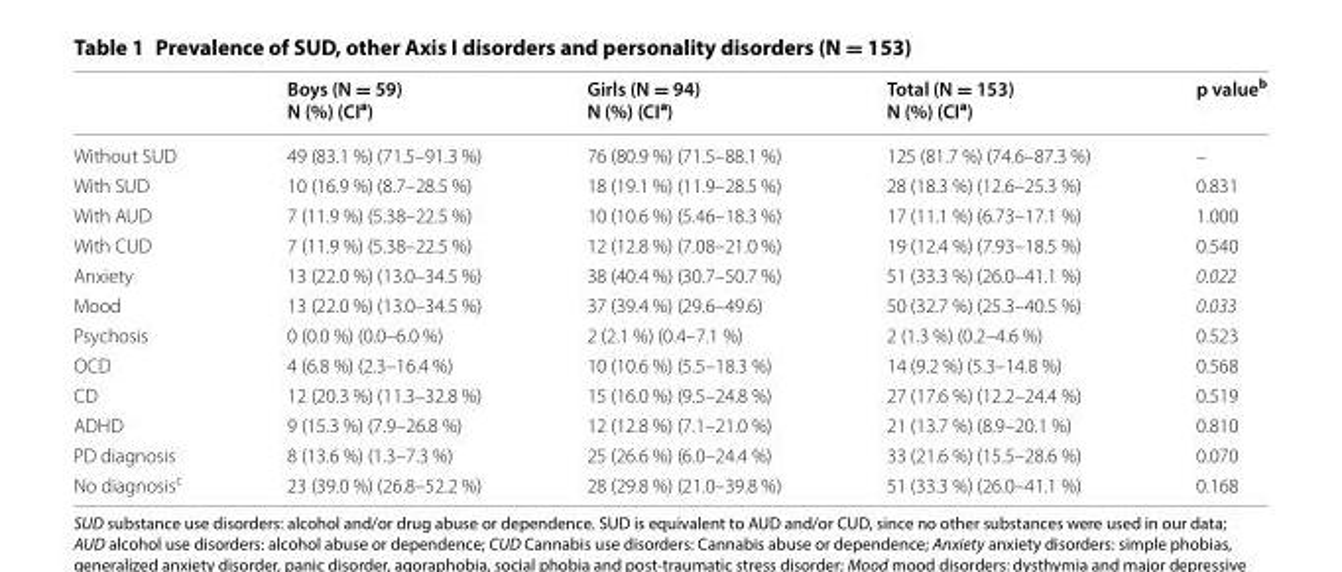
<table><thead><tr><td></td><td>Boys (N = 59) N (%) (CI<sup>a</sup>)</td><td>Girls (N = 94) N (%) (CI<sup>a</sup>)</td><td>Total (N = 153) N (%) (CI<sup>a</sup>)</td><td>p value<sup>b</sup></td></tr></thead><tbody><tr><td>Without SUD</td><td>49 (83.1 %) (71.5–91.3 %)</td><td>76 (80.9 %) (71.5–88.1 %)</td><td>125 (81.7 %) (74.6–87.3 %)</td><td>–</td></tr><tr><td>With SUD</td><td>10 (16.9 %) (8.7–28.5 %)</td><td>18 (19.1 %) (11.9–28.5 %)</td><td>28 (18.3 %) (12.6–25.3 %)</td><td>0.831</td></tr><tr><td>With AUD</td><td>7 (11.9 %) (5.38–22.5 %)</td><td>10 (10.6 %) (5.46–18.3 %)</td><td>17 (11.1 %) (6.73–17.1 %)</td><td>1.000</td></tr><tr><td>With CUD</td><td>7 (11.9 %) (5.38–22.5 %)</td><td>12 (12.8 %) (7.08–21.0 %)</td><td>19 (12.4 %) (7.93–18.5 %)</td><td>0.540</td></tr><tr><td>Anxiety</td><td>13 (22.0 %) (13.0–34.5 %)</td><td>38 (40.4 %) (30.7–50.7 %)</td><td>51 (33.3 %) (26.0–41.1 %)</td><td>0.022</td></tr><tr><td>Mood</td><td>13 (22.0 %) (13.0–34.5 %)</td><td>37 (39.4 %) (29.6–49.6)</td><td>50 (32.7 %) (25.3–40.5 %)</td><td>0.033</td></tr><tr><td>Psychosis</td><td>0 (0.0 %) (0.0–6.0 %)</td><td>2 (2.1 %) (0.4–7.1 %)</td><td>2 (1.3 %) (0.2–4.6 %)</td><td>0.523</td></tr><tr><td>OCD</td><td>4 (6.8 %) (2.3–16.4 %)</td><td>10 (10.6 %) (5.5–18.3 %)</td><td>14 (9.2 %) (5.3–14.8 %)</td><td>0.568</td></tr><tr><td>CD</td><td>12 (20.3 %) (11.3–32.8 %)</td><td>15 (16.0 %) (9.5–24.8 %)</td><td>27 (17.6 %) (12.2–24.4 %)</td><td>0.519</td></tr><tr><td>ADHD</td><td>9 (15.3 %) (7.9–26.8 %)</td><td>12 (12.8 %) (7.1–21.0 %)</td><td>21 (13.7 %) (8.9–20.1 %)</td><td>0.810</td></tr><tr><td>PD diagnosis</td><td>8 (13.6 %) (1.3–7.3 %)</td><td>25 (26.6 %) (6.0–24.4 %)</td><td>33 (21.6 %) (15.5–28.6 %)</td><td>0.070</td></tr><tr><td>No diagnosis<sup>c</sup></td><td>23 (39.0 %) (26.8–52.2 %)</td><td>28 (29.8 %) (21.0–39.8 %)</td><td>51 (33.3 %) (26.0–41.1 %)</td><td>0.168</td></tr></tbody></table>